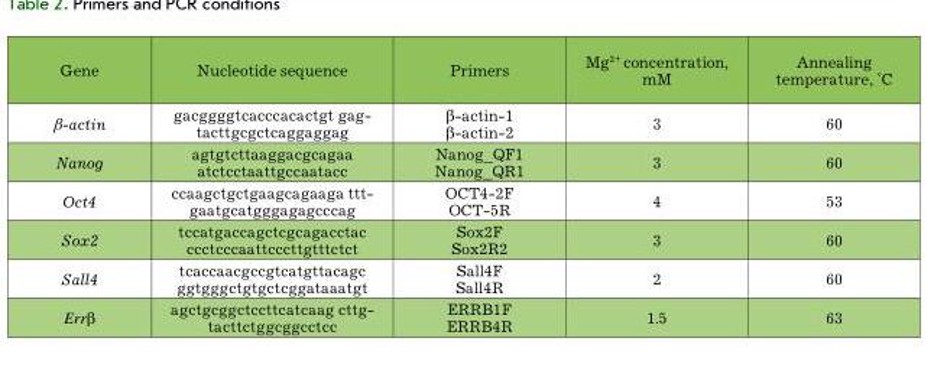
<table><thead><tr><td>Gene</td><td>Nucleotide sequence</td><td>Primers</td><td>Mg2+ concentration, mM</td><td>Annealing temperature, °C</td></tr></thead><tbody><tr><td>β-actin</td><td>gacggggtcacccacactgt gag- tacttgcgctcaggaggag</td><td>β-actin-1 β-actin-2</td><td>3</td><td>60</td></tr><tr><td>Nanog</td><td>agtgtcttaaggacgcagaa atctcctaattgccaatacc</td><td>Nanog_QF1 Nanog_QR1</td><td>3</td><td>60</td></tr><tr><td>Oct4</td><td>ccaagctgctgaagcagaaga ttt- gaatgcatgggagagcccag</td><td>OCT4-2F OCT-5R</td><td>4</td><td>53</td></tr><tr><td>Sox2</td><td>tccatgaccagctcgcagacctac ccctcccaattcccttgtttctct</td><td>Sox2F Sox2R2</td><td>3</td><td>60</td></tr><tr><td>Sall4</td><td>tcaccaacgccgtcatgttacagc ggtgggctgtgctcggataaatgt</td><td>Sall4F Sall4R</td><td>2</td><td>60</td></tr><tr><td>Errβ</td><td>agctgcggctccttcatcaag cttg- tacttctggcggcctcc</td><td>ERRB1F ERRB4R</td><td>1.5</td><td>63</td></tr></tbody></table>